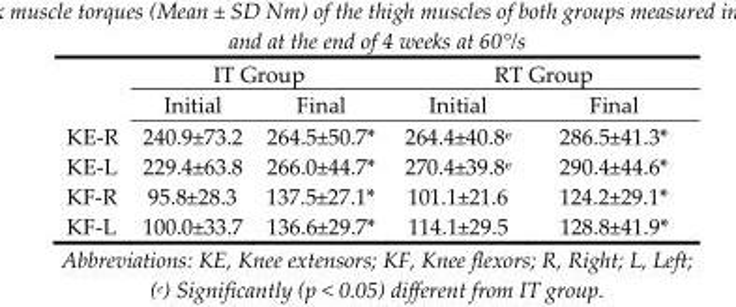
<table><thead><tr><td rowspan="2"></td><td colspan="2">IT Group</td><td colspan="2">RT Group</td></tr><tr><td>Initial</td><td>Final</td><td>Initial</td><td>Final</td></tr></thead><tbody><tr><td>KE-R</td><td>240.9±73.2</td><td>264.5±50.7*</td><td>264.4±40.8<sup>e</sup></td><td>286.5±41.3*</td></tr><tr><td>KE-L</td><td>229.4±63.8</td><td>266.0±44.7*</td><td>270.4±39.8<sup>e</sup></td><td>290.4±44.6*</td></tr><tr><td>KF-R</td><td>95.8±28.3</td><td>137.5±27.1*</td><td>101.1±21.6</td><td>124.2±29.1*</td></tr><tr><td>KF-L</td><td>100.0±33.7</td><td>136.6±29.7*</td><td>114.1±29.5</td><td>128.8±41.9*</td></tr></tbody></table>